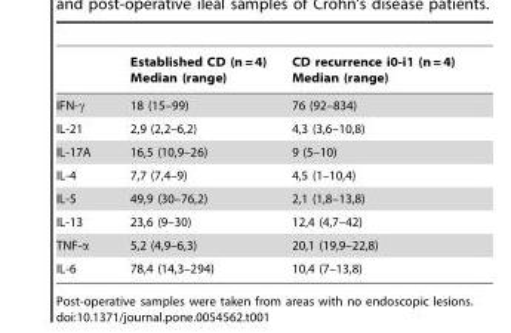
<table><thead><tr><td></td><td>Established CD (n = 4) Median (range)</td><td>CD recurrence i0-i1 (n = 4) Median (range)</td></tr></thead><tbody><tr><td>IFN-γ</td><td>18 (15–99)</td><td>76 (92–834)</td></tr><tr><td>IL-21</td><td>2,9 (2,2–6,2)</td><td>4,3 (3,6–10,8)</td></tr><tr><td>IL-17A</td><td>16,5 (10,9–26)</td><td>9 (5–10)</td></tr><tr><td>IL-4</td><td>7,7 (7,4–9)</td><td>4,5 (1–10,4)</td></tr><tr><td>IL-5</td><td>49,9 (30–76,2)</td><td>2,1 (1,8–13,8)</td></tr><tr><td>IL-13</td><td>23,6 (9–30)</td><td>12,4 (4,7–42)</td></tr><tr><td>TNF-α</td><td>5,2 (4,9–6,3)</td><td>20,1 (19,9–22,8)</td></tr><tr><td>IL-6</td><td>78,4 (14,3–294)</td><td>10,4 (7–13,8)</td></tr></tbody></table>